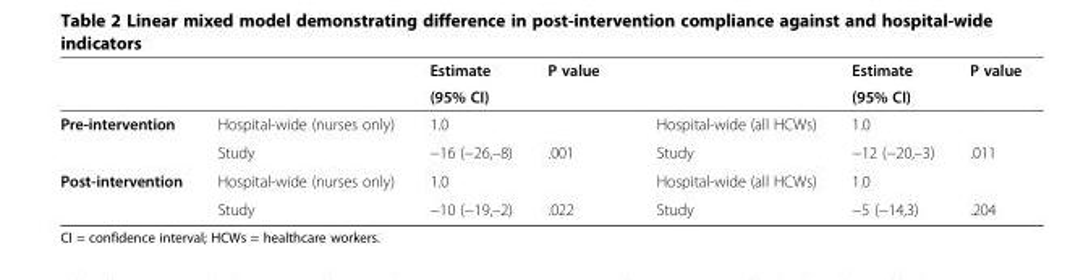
<table><thead><tr><td rowspan="2"></td><td rowspan="2"></td><td rowspan="2">Estimate (95% CI)</td><td rowspan="2">P value</td><td rowspan="2"></td><td rowspan="2">Estimate (95% CI)</td><td rowspan="2">P value</td></tr><tr></tr></thead><tbody><tr><td rowspan="2">Pre-intervention</td><td>Hospital-wide (nurses only)</td><td>1.0</td><td></td><td>Hospital-wide (all HCWs)</td><td>1.0</td><td></td></tr><tr><td>Study</td><td>−16 (−26,–8)</td><td>.001</td><td>Study</td><td>−12 (−20,–3)</td><td>.011</td></tr><tr><td rowspan="2">Post-intervention</td><td>Hospital-wide (nurses only)</td><td>1.0</td><td></td><td>Hospital-wide (all HCWs)</td><td>1.0</td><td></td></tr><tr><td>Study</td><td>−10 (−19,–2)</td><td>.022</td><td>Study</td><td>−5 (−14,3)</td><td>.204</td></tr></tbody></table>